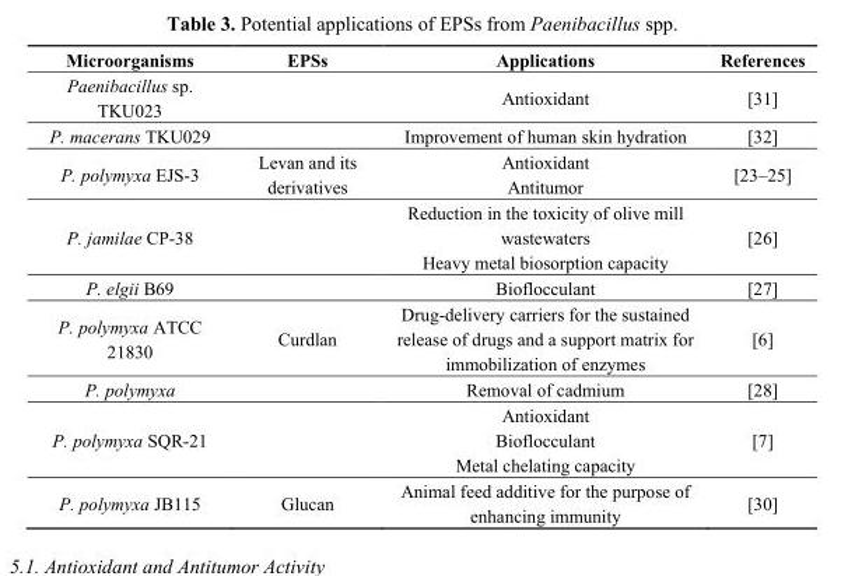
<table><thead><tr><td>Microorganisms</td><td>EPSs</td><td>Applications</td><td>References</td></tr></thead><tbody><tr><td>Paenibacillus sp. TKU023</td><td></td><td>Antioxidant</td><td>[31]</td></tr><tr><td>P. macerans TKU029</td><td></td><td>Improvement of human skin hydration</td><td>[32]</td></tr><tr><td>P. polymyxa EJS-3</td><td>Levan and its derivatives</td><td>Antioxidant Antitumor</td><td>[23–25]</td></tr><tr><td>P. jamilae CP-38</td><td></td><td>Reduction in the toxicity of olive mill wastewaters Heavy metal biosorption capacity</td><td>[26]</td></tr><tr><td>P. elgii B69</td><td></td><td>Bioflocculant</td><td>[27]</td></tr><tr><td>P. polymyxa ATCC 21830</td><td>Curdlan</td><td>Drug-delivery carriers for the sustained release of drugs and a support matrix for immobilization of enzymes</td><td>[6]</td></tr><tr><td>P. polymyxa</td><td></td><td>Removal of cadmium</td><td>[28]</td></tr><tr><td>P. polymyxa SQR-21</td><td></td><td>Antioxidant Bioflocculant Metal chelating capacity</td><td>[7]</td></tr><tr><td>P. polymyxa JB115</td><td>Glucan</td><td>Animal feed additive for the purpose of enhancing immunity</td><td>[30]</td></tr></tbody></table>